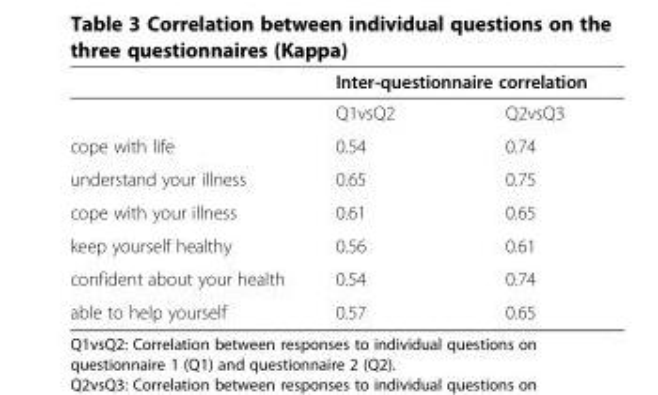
<table><thead><tr><td rowspan="2"></td><td colspan="2">Inter-questionnaire correlation</td></tr><tr><td>Q1vsQ2</td><td>Q2vsQ3</td></tr></thead><tbody><tr><td>cope with life</td><td>0.54</td><td>0.74</td></tr><tr><td>understand your illness</td><td>0.65</td><td>0.75</td></tr><tr><td>cope with your illness</td><td>0.61</td><td>0.65</td></tr><tr><td>keep yourself healthy</td><td>0.56</td><td>0.61</td></tr><tr><td>confident about your health</td><td>0.54</td><td>0.74</td></tr><tr><td>able to help yourself</td><td>0.57</td><td>0.65</td></tr></tbody></table>